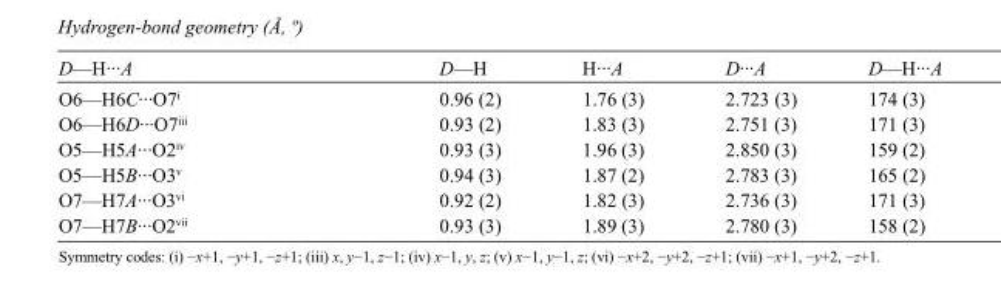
<table><tbody><tr><td>D—H···A</td><td>D—H</td><td>H···A</td><td>D···A</td><td>D—H···A</td></tr><tr><td>O6—H6C···O7<sup>i</sup></td><td>0.96 (2)</td><td>1.76 (3)</td><td>2.723 (3)</td><td>174 (3)</td></tr><tr><td>O6—H6D···O7<sup>iii</sup></td><td>0.93 (2)</td><td>1.83 (3)</td><td>2.751 (3)</td><td>171 (3)</td></tr><tr><td>O5—H5A···O2<sup>iv</sup></td><td>0.93 (3)</td><td>1.96 (3)</td><td>2.850 (3)</td><td>159 (2)</td></tr><tr><td>O5—H5B···O3<sup>v</sup></td><td>0.94 (3)</td><td>1.87 (2)</td><td>2.783 (3)</td><td>165 (2)</td></tr><tr><td>O7—H7A···O3<sup>vi</sup></td><td>0.92 (2)</td><td>1.82 (3)</td><td>2.736 (3)</td><td>171 (3)</td></tr><tr><td>O7—H7B···O2<sup>vii</sup></td><td>0.93 (3)</td><td>1.89 (3)</td><td>2.780 (3)</td><td>158 (2)</td></tr></tbody></table>